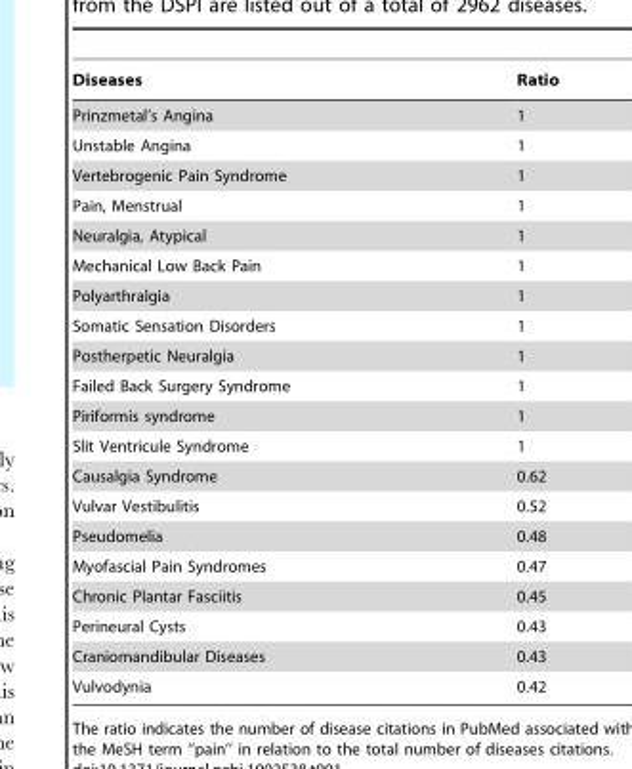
<table><thead><tr><td>Diseases</td><td>Ratio</td></tr></thead><tbody><tr><td>Prinzmetal’s Angina</td><td>1</td></tr><tr><td>Unstable Angina</td><td>1</td></tr><tr><td>Vertebrogenic Pain Syndrome</td><td>1</td></tr><tr><td>Pain, Menstrual</td><td>1</td></tr><tr><td>Neuralgia, Atypical</td><td>1</td></tr><tr><td>Mechanical Low Back Pain</td><td>1</td></tr><tr><td>Polyarthralgia</td><td>1</td></tr><tr><td>Somatic Sensation Disorders</td><td>1</td></tr><tr><td>Postherpetic Neuralgia</td><td>1</td></tr><tr><td>Failed Back Surgery Syndrome</td><td>1</td></tr><tr><td>Piriformis syndrome</td><td>1</td></tr><tr><td>Slit Ventricule Syndrome</td><td>1</td></tr><tr><td>Causalgia Syndrome</td><td>0.62</td></tr><tr><td>Vulvar Vestibulitis</td><td>0.52</td></tr><tr><td>Pseudomelia</td><td>0.48</td></tr><tr><td>Myofascial Pain Syndromes</td><td>0.47</td></tr><tr><td>Chronic Plantar Fasciitis</td><td>0.45</td></tr><tr><td>Perineural Cysts</td><td>0.43</td></tr><tr><td>Craniomandibular Diseases</td><td>0.43</td></tr><tr><td>Vulvodynia</td><td>0.42</td></tr></tbody></table>